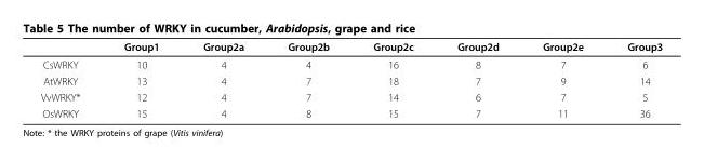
<table><thead><tr><td></td><td>Group1</td><td>Group2a</td><td>Group2b</td><td>Group2c</td><td>Group2d</td><td>Group2e</td><td>Group3</td></tr></thead><tbody><tr><td>CsWRKY</td><td>10</td><td>4</td><td>4</td><td>16</td><td>8</td><td>7</td><td>6</td></tr><tr><td>AtWRKY</td><td>13</td><td>4</td><td>7</td><td>18</td><td>7</td><td>9</td><td>14</td></tr><tr><td>VvWRKY*</td><td>12</td><td>4</td><td>7</td><td>14</td><td>6</td><td>7</td><td>5</td></tr><tr><td>OsWRKY</td><td>15</td><td>4</td><td>8</td><td>15</td><td>7</td><td>11</td><td>36</td></tr></tbody></table>